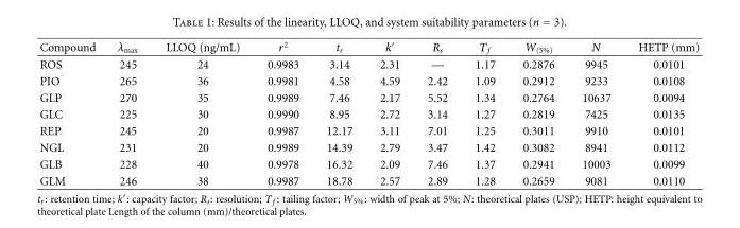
<table><thead><tr><td>Compound</td><td>λ<sub>max</sub></td><td>LLOQ (ng/mL)</td><td>r<sup>2</sup></td><td>t<sub>r</sub></td><td>k′</td><td>R<sub>s</sub></td><td>T <sub>f</sub></td><td>W<sub>(5%)</sub></td><td>N</td><td>HETP (mm)</td></tr></thead><tbody><tr><td>ROS</td><td>245</td><td>24</td><td>0.9983</td><td>3.14</td><td>2.31</td><td>—</td><td>1.17</td><td>0.2876</td><td>9945</td><td>0.0101</td></tr><tr><td>PIO</td><td>265</td><td>36</td><td>0.9981</td><td>4.58</td><td>4.59</td><td>2.42</td><td>1.09</td><td>0.2912</td><td>9233</td><td>0.0108</td></tr><tr><td>GLP</td><td>270</td><td>35</td><td>0.9989</td><td>7.46</td><td>2.17</td><td>5.52</td><td>1.34</td><td>0.2764</td><td>10637</td><td>0.0094</td></tr><tr><td>GLC</td><td>225</td><td>30</td><td>0.9990</td><td>8.95</td><td>2.72</td><td>3.14</td><td>1.27</td><td>0.2819</td><td>7425</td><td>0.0135</td></tr><tr><td>REP</td><td>245</td><td>20</td><td>0.9987</td><td>12.17</td><td>3.11</td><td>7.01</td><td>1.25</td><td>0.3011</td><td>9910</td><td>0.0101</td></tr><tr><td>NGL</td><td>231</td><td>20</td><td>0.9989</td><td>14.39</td><td>2.79</td><td>3.47</td><td>1.42</td><td>0.3082</td><td>8941</td><td>0.0112</td></tr><tr><td>GLB</td><td>228</td><td>40</td><td>0.9978</td><td>16.32</td><td>2.09</td><td>7.46</td><td>1.37</td><td>0.2941</td><td>10003</td><td>0.0099</td></tr><tr><td>GLM</td><td>246</td><td>38</td><td>0.9987</td><td>18.78</td><td>2.57</td><td>2.89</td><td>1.28</td><td>0.2659</td><td>9081</td><td>0.0110</td></tr></tbody></table>